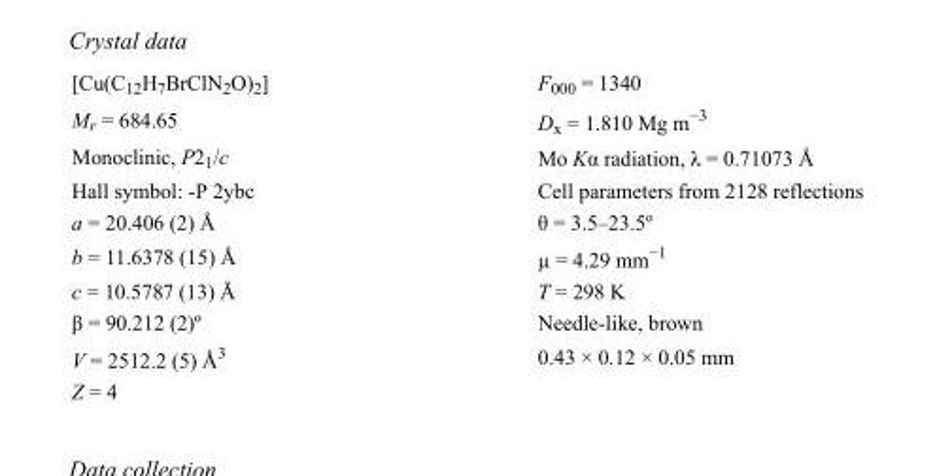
<table><tbody><tr><td>[Cu(C<sub>12</sub>H<sub>7</sub>BrClN<sub>2</sub>O)<sub>2</sub>]</td><td>F000 = 1340</td></tr><tr><td>M<sub>r</sub> = 684.65</td><td>D<sub>x</sub> = 1.810 Mg m<sup>−3</sup></td></tr><tr><td>Monoclinic, P2<sub>1</sub>/c</td><td>Mo Kα radiation, λ = 0.71073 Å</td></tr><tr><td>Hall symbol: -P 2ybc</td><td>Cell parameters from 2128 reflections</td></tr><tr><td>a = 20.406 (2) Å</td><td>θ = 3.5–23.5º</td></tr><tr><td>b = 11.6378 (15) Å</td><td>µ = 4.29 mm<sup>−1</sup></td></tr><tr><td>c = 10.5787 (13) Å</td><td>T = 298 K</td></tr><tr><td>β = 90.212 (2)º</td><td>Needle-like, brown</td></tr><tr><td>V = 2512.2 (5) Å<sup>3</sup></td><td>0.43 × 0.12 × 0.05 mm</td></tr><tr><td>Z = 4</td><td></td></tr></tbody></table>